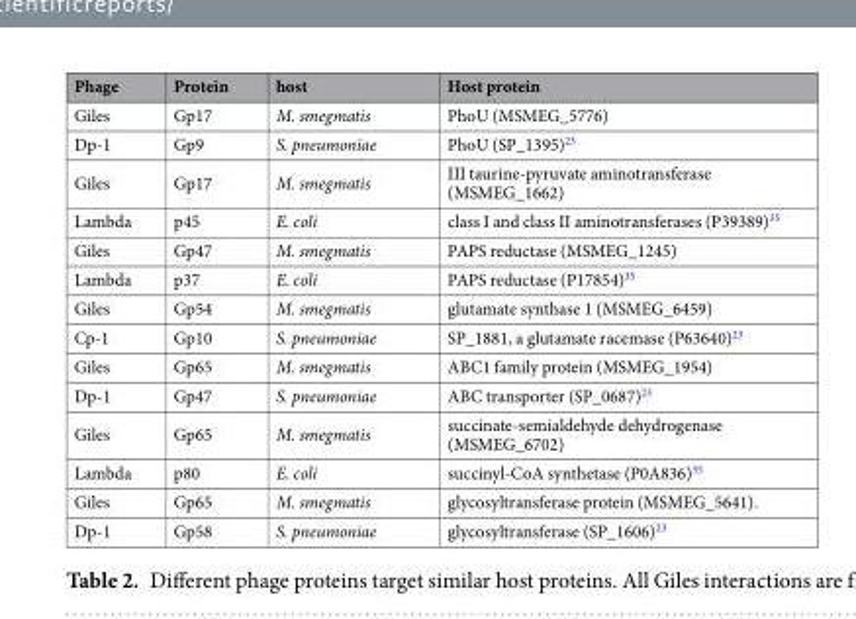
<table><thead><tr><td>Phage</td><td>Protein</td><td>host</td><td>Host protein</td></tr></thead><tbody><tr><td>Giles</td><td>Gp17</td><td>M. smegmatis</td><td>PhoU (MSMEG_5776)</td></tr><tr><td>Dp-1</td><td>Gp9</td><td>S. pneumoniae</td><td>PhoU (SP_1395)<sup>23</sup></td></tr><tr><td>Giles</td><td>Gp17</td><td>M. smegmatis</td><td>III taurine-pyruvate aminotransferase (MSMEG_1662)</td></tr><tr><td>Lambda</td><td>p45</td><td>E. coli</td><td>class I and class II aminotransferases (P39389)<sup>35</sup></td></tr><tr><td>Giles</td><td>Gp47</td><td>M. smegmatis</td><td>PAPS reductase (MSMEG_1245)</td></tr><tr><td>Lambda</td><td>p37</td><td>E. coli</td><td>PAPS reductase (P17854)<sup>35</sup></td></tr><tr><td>Giles</td><td>Gp54</td><td>M. smegmatis</td><td>glutamate synthase 1 (MSMEG_6459)</td></tr><tr><td>Cp-1</td><td>Gp10</td><td>S. pneumoniae</td><td>SP_1881, a glutamate racemase (P63640)<sup>23</sup></td></tr><tr><td>Giles</td><td>Gp65</td><td>M. smegmatis</td><td>ABC1 family protein (MSMEG_1954)</td></tr><tr><td>Dp-1</td><td>Gp47</td><td>S. pneumoniae</td><td>ABC transporter (SP_0687)<sup>23</sup></td></tr><tr><td>Giles</td><td>Gp65</td><td>M. smegmatis</td><td>succinate-semialdehyde dehydrogenase (MSMEG_6702)</td></tr><tr><td>Lambda</td><td>p80</td><td>E. coli</td><td>succinyl-CoA synthetase (P0A836)<sup>35</sup></td></tr><tr><td>Giles</td><td>Gp65</td><td>M. smegmatis</td><td>glycosyltransferase protein (MSMEG_5641).</td></tr><tr><td>Dp-1</td><td>Gp58</td><td>S. pneumoniae</td><td>glycosyltransferase (SP_1606)<sup>23</sup></td></tr></tbody></table>